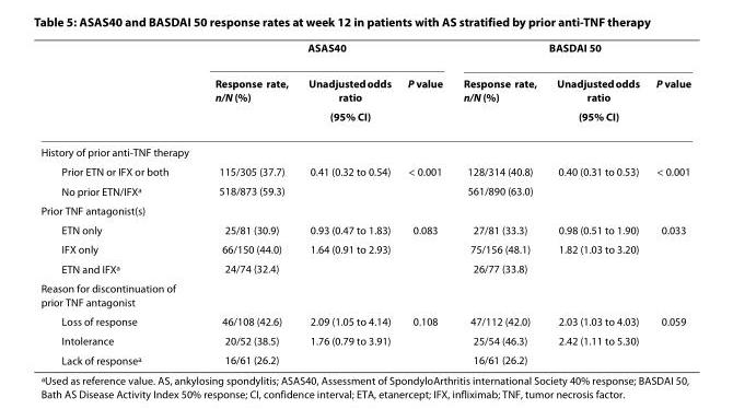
<table><thead><tr><td rowspan="3"></td><td colspan="3">ASAS40</td><td colspan="3">BASDAI 50</td></tr><tr><td rowspan="2">Response rate, n/N (%)</td><td rowspan="2">Unadjusted odds ratio (95% CI)</td><td rowspan="2">P value</td><td rowspan="2">Response rate, n/N (%)</td><td rowspan="2">Unadjusted odds ratio (95% CI)</td><td rowspan="2">P value</td></tr><tr></tr></thead><tbody><tr><td colspan="7">History of prior anti-TNF therapy</td></tr><tr><td>Prior ETN or IFX or both</td><td>115/305 (37.7)</td><td>0.41 (0.32 to 0.54)</td><td>&lt; 0.001</td><td>128/314 (40.8)</td><td>0.40 (0.31 to 0.53)</td><td>&lt; 0.001</td></tr><tr><td>No prior ETN/IFX<sup>a</sup></td><td>518/873 (59.3)</td><td></td><td></td><td>561/890 (63.0)</td><td></td><td></td></tr><tr><td colspan="7">Prior TNF antagonist(s)</td></tr><tr><td>ETN only</td><td>25/81 (30.9)</td><td>0.93 (0.47 to 1.83)</td><td>0.083</td><td>27/81 (33.3)</td><td>0.98 (0.51 to 1.90)</td><td>0.033</td></tr><tr><td>IFX only</td><td>66/150 (44.0)</td><td>1.64 (0.91 to 2.93)</td><td></td><td>75/156 (48.1)</td><td>1.82 (1.03 to 3.20)</td><td></td></tr><tr><td>ETN and IFX<sup>a</sup></td><td>24/74 (32.4)</td><td></td><td></td><td>26/77 (33.8)</td><td></td><td></td></tr><tr><td colspan="7">Reason for discontinuation of prior TNF antagonist</td></tr><tr><td>Loss of response</td><td>46/108 (42.6)</td><td>2.09 (1.05 to 4.14)</td><td>0.108</td><td>47/112 (42.0)</td><td>2.03 (1.03 to 4.03)</td><td>0.059</td></tr><tr><td>Intolerance</td><td>20/52 (38.5)</td><td>1.76 (0.79 to 3.91)</td><td></td><td>25/54 (46.3)</td><td>2.42 (1.11 to 5.30)</td><td></td></tr><tr><td>Lack of response<sup>a</sup></td><td>16/61 (26.2)</td><td></td><td></td><td>16/61 (26.2)</td><td></td><td></td></tr></tbody></table>